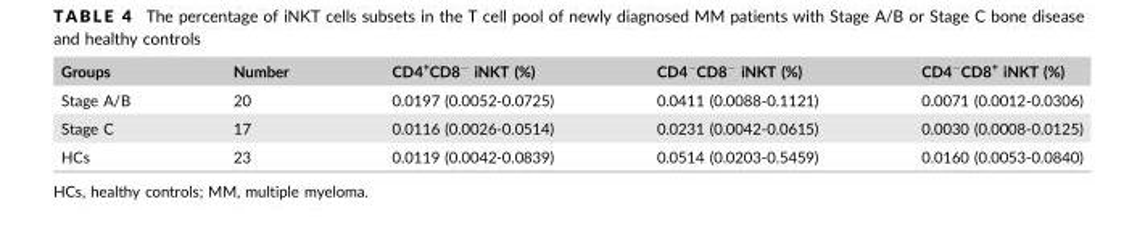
<table><thead><tr><td>Groups</td><td>Number</td><td>CD4<sup>+</sup>CD8<sup>−</sup> iNKT (%)</td><td>CD4<sup>−</sup>CD8<sup>−</sup> iNKT (%)</td><td>CD4<sup>−</sup>CD8<sup>+</sup> iNKT (%)</td></tr></thead><tbody><tr><td>Stage A/B</td><td>20</td><td>0.0197 (0.0052-0.0725)</td><td>0.0411 (0.0088-0.1121)</td><td>0.0071 (0.0012-0.0306)</td></tr><tr><td>Stage C</td><td>17</td><td>0.0116 (0.0026-0.0514)</td><td>0.0231 (0.0042-0.0615)</td><td>0.0030 (0.0008-0.0125)</td></tr><tr><td>HCs</td><td>23</td><td>0.0119 (0.0042-0.0839)</td><td>0.0514 (0.0203-0.5459)</td><td>0.0160 (0.0053-0.0840)</td></tr></tbody></table>